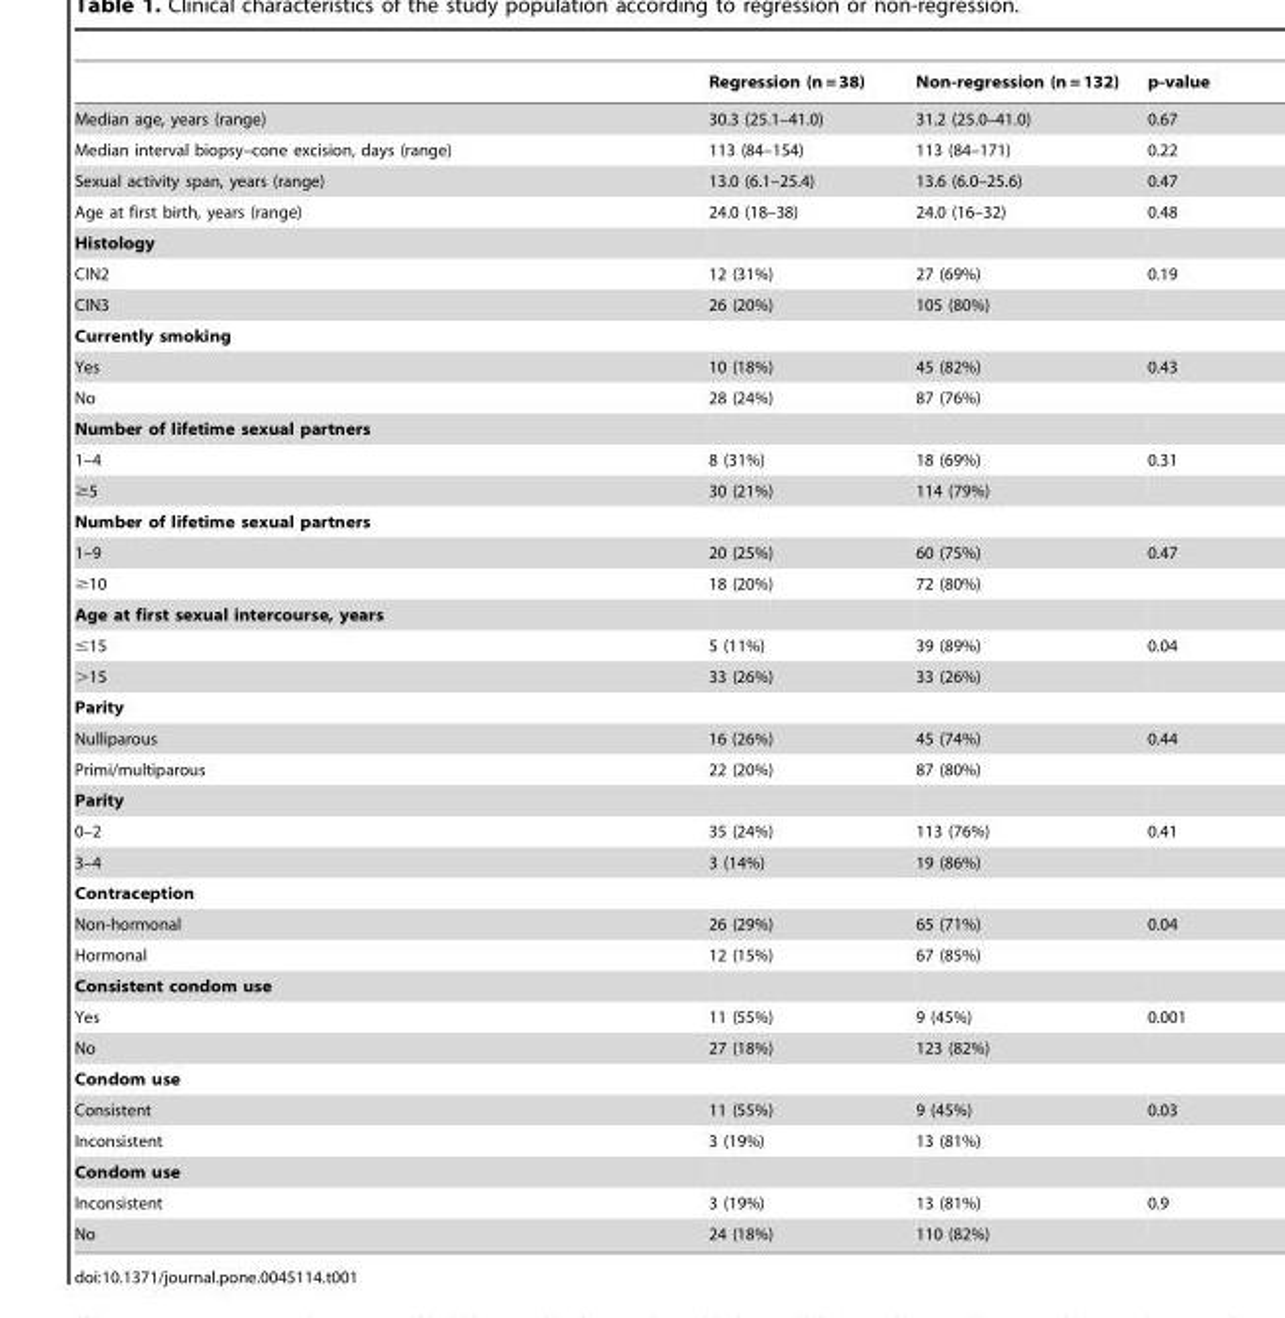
<table><thead><tr><td></td><td>Regression (n = 38)</td><td>Non-regression (n = 132)</td><td>p-value</td></tr></thead><tbody><tr><td>Median age, years (range)</td><td>30.3 (25.1–41.0)</td><td>31.2 (25.0–41.0)</td><td>0.67</td></tr><tr><td>Median interval biopsy–cone excision, days (range)</td><td>113 (84–154)</td><td>113 (84–171)</td><td>0.22</td></tr><tr><td>Sexual activity span, years (range)</td><td>13.0 (6.1–25.4)</td><td>13.6 (6.0–25.6)</td><td>0.47</td></tr><tr><td>Age at first birth, years (range)</td><td>24.0 (18–38)</td><td>24.0 (16–32)</td><td>0.48</td></tr><tr><td colspan="4">Histology</td></tr><tr><td>CIN2</td><td>12 (31%)</td><td>27 (69%)</td><td>0.19</td></tr><tr><td>CIN3</td><td>26 (20%)</td><td>105 (80%)</td><td></td></tr><tr><td colspan="4">Currently smoking</td></tr><tr><td>Yes</td><td>10 (18%)</td><td>45 (82%)</td><td>0.43</td></tr><tr><td>No</td><td>28 (24%)</td><td>87 (76%)</td><td></td></tr><tr><td colspan="4">Number of lifetime sexual partners</td></tr><tr><td>1–4</td><td>8 (31%)</td><td>18 (69%)</td><td>0.31</td></tr><tr><td>≥5</td><td>30 (21%)</td><td>114 (79%)</td><td></td></tr><tr><td colspan="4">Number of lifetime sexual partners</td></tr><tr><td>1–9</td><td>20 (25%)</td><td>60 (75%)</td><td>0.47</td></tr><tr><td>≥10</td><td>18 (20%)</td><td>72 (80%)</td><td></td></tr><tr><td colspan="4">Age at first sexual intercourse, years</td></tr><tr><td>≤15</td><td>5 (11%)</td><td>39 (89%)</td><td>0.04</td></tr><tr><td>&gt;15</td><td>33 (26%)</td><td>33 (26%)</td><td></td></tr><tr><td colspan="4">Parity</td></tr><tr><td>Nulliparous</td><td>16 (26%)</td><td>45 (74%)</td><td>0.44</td></tr><tr><td>Primi/multiparous</td><td>22 (20%)</td><td>87 (80%)</td><td></td></tr><tr><td colspan="4">Parity</td></tr><tr><td>0–2</td><td>35 (24%)</td><td>113 (76%)</td><td>0.41</td></tr><tr><td>3–4</td><td>3 (14%)</td><td>19 (86%)</td><td></td></tr><tr><td colspan="4">Contraception</td></tr><tr><td>Non-hormonal</td><td>26 (29%)</td><td>65 (71%)</td><td>0.04</td></tr><tr><td>Hormonal</td><td>12 (15%)</td><td>67 (85%)</td><td></td></tr><tr><td colspan="4">Consistent condom use</td></tr><tr><td>Yes</td><td>11 (55%)</td><td>9 (45%)</td><td>0.001</td></tr><tr><td>No</td><td>27 (18%)</td><td>123 (82%)</td><td></td></tr><tr><td colspan="4">Condom use</td></tr><tr><td>Consistent</td><td>11 (55%)</td><td>9 (45%)</td><td>0.03</td></tr><tr><td>Inconsistent</td><td>3 (19%)</td><td>13 (81%)</td><td></td></tr><tr><td colspan="4">Condom use</td></tr><tr><td>Inconsistent</td><td>3 (19%)</td><td>13 (81%)</td><td>0.9</td></tr><tr><td>No</td><td>24 (18%)</td><td>110 (82%)</td><td></td></tr></tbody></table>